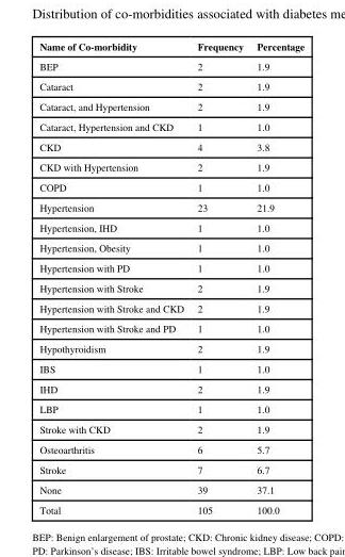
<table><thead><tr><td>Name of Co-morbidity</td><td>Frequency</td><td>Percentage</td></tr></thead><tbody><tr><td>BEP</td><td>2</td><td>1.9</td></tr><tr><td>Cataract</td><td>2</td><td>1.9</td></tr><tr><td>Cataract, and Hypertension</td><td>2</td><td>1.9</td></tr><tr><td>Cataract, Hypertension and CKD</td><td>1</td><td>1.0</td></tr><tr><td>CKD</td><td>4</td><td>3.8</td></tr><tr><td>CKD with Hypertension</td><td>2</td><td>1.9</td></tr><tr><td>COPD</td><td>1</td><td>1.0</td></tr><tr><td>Hypertension</td><td>23</td><td>21.9</td></tr><tr><td>Hypertension, IHD</td><td>1</td><td>1.0</td></tr><tr><td>Hypertension, Obesity</td><td>1</td><td>1.0</td></tr><tr><td>Hypertension with PD</td><td>1</td><td>1.0</td></tr><tr><td>Hypertension with Stroke</td><td>2</td><td>1.9</td></tr><tr><td>Hypertension with Stroke and CKD</td><td>2</td><td>1.9</td></tr><tr><td>Hypertension with Stroke and PD</td><td>1</td><td>1.0</td></tr><tr><td>Hypothyroidism</td><td>2</td><td>1.9</td></tr><tr><td>IBS</td><td>1</td><td>1.0</td></tr><tr><td>IHD</td><td>2</td><td>1.9</td></tr><tr><td>LBP</td><td>1</td><td>1.0</td></tr><tr><td>Stroke with CKD</td><td>2</td><td>1.9</td></tr><tr><td>Osteoarthritis</td><td>6</td><td>5.7</td></tr><tr><td>Stroke</td><td>7</td><td>6.7</td></tr><tr><td>None</td><td>39</td><td>37.1</td></tr><tr><td>Total</td><td>105</td><td>100.0</td></tr></tbody></table>